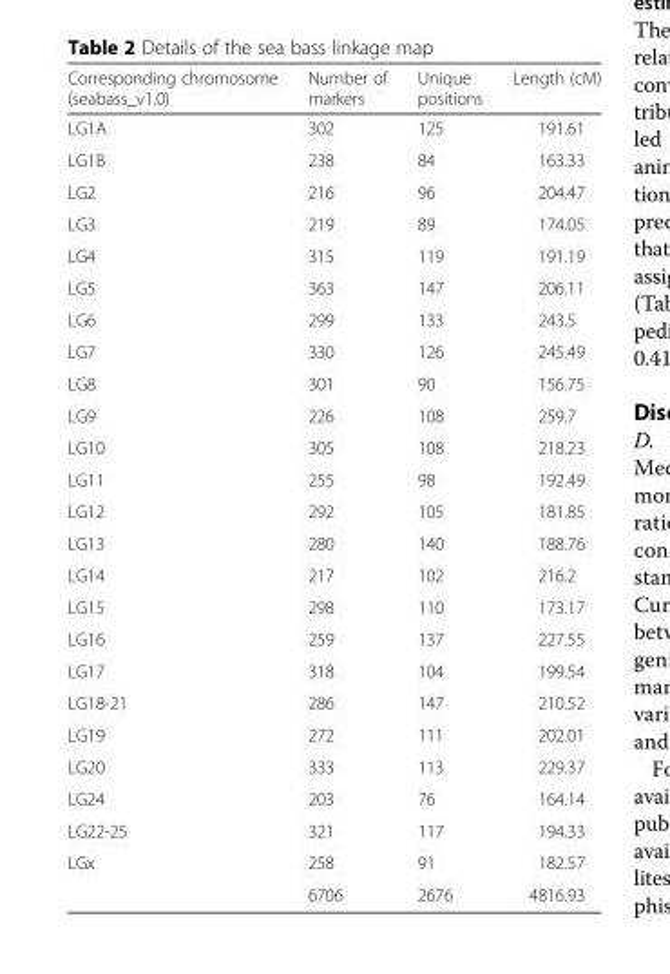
<table><thead><tr><td>Corresponding chromosome (seabass_v1.0)</td><td>Number of markers</td><td>Unique positions</td><td>Length (cM)</td></tr></thead><tbody><tr><td>LG1A</td><td>302</td><td>125</td><td>191.61</td></tr><tr><td>LG1B</td><td>238</td><td>84</td><td>163.33</td></tr><tr><td>LG2</td><td>216</td><td>96</td><td>204.47</td></tr><tr><td>LG3</td><td>219</td><td>89</td><td>174.05</td></tr><tr><td>LG4</td><td>315</td><td>119</td><td>191.19</td></tr><tr><td>LG5</td><td>363</td><td>147</td><td>206.11</td></tr><tr><td>LG6</td><td>299</td><td>133</td><td>243.5</td></tr><tr><td>LG7</td><td>330</td><td>126</td><td>245.49</td></tr><tr><td>LG8</td><td>301</td><td>90</td><td>156.75</td></tr><tr><td>LG9</td><td>226</td><td>108</td><td>259.7</td></tr><tr><td>LG10</td><td>305</td><td>108</td><td>218.23</td></tr><tr><td>LG11</td><td>255</td><td>98</td><td>192.49</td></tr><tr><td>LG12</td><td>292</td><td>105</td><td>181.85</td></tr><tr><td>LG13</td><td>280</td><td>140</td><td>188.76</td></tr><tr><td>LG14</td><td>217</td><td>102</td><td>216.2</td></tr><tr><td>LG15</td><td>298</td><td>110</td><td>173.17</td></tr><tr><td>LG16</td><td>259</td><td>137</td><td>227.55</td></tr><tr><td>LG17</td><td>318</td><td>104</td><td>199.54</td></tr><tr><td>LG18-21</td><td>286</td><td>147</td><td>210.52</td></tr><tr><td>LG19</td><td>272</td><td>111</td><td>202.01</td></tr><tr><td>LG20</td><td>333</td><td>113</td><td>229.37</td></tr><tr><td>LG24</td><td>203</td><td>76</td><td>164.14</td></tr><tr><td>LG22-25</td><td>321</td><td>117</td><td>194.33</td></tr><tr><td rowspan="2">LGx</td><td>258</td><td>91</td><td>182.57</td></tr><tr><td>6706</td><td>2676</td><td>4816.93</td></tr></tbody></table>